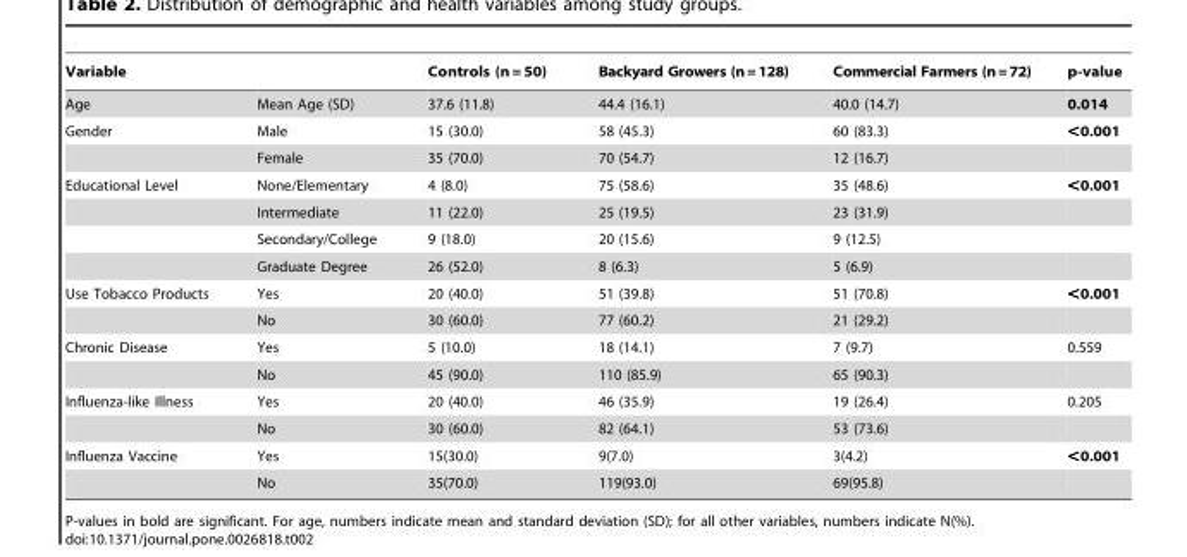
<table><thead><tr><td>Variable</td><td></td><td>Controls (n = 50)</td><td>Backyard Growers (n=128)</td><td>Commercial Farmers (n=72)</td><td>p-value</td></tr></thead><tbody><tr><td>Age</td><td>Mean Age (SD)</td><td>37.6 (11.8)</td><td>44.4 (16.1)</td><td>40.0 (14.7)</td><td>0.014</td></tr><tr><td rowspan="2">Gender</td><td>Male</td><td>15 (30.0)</td><td>58 (45.3)</td><td>60 (83.3)</td><td>&lt;0.001</td></tr><tr><td>Female</td><td>35 (70.0)</td><td>70 (54.7)</td><td>12 (16.7)</td><td></td></tr><tr><td rowspan="4">Educational Level</td><td>None/Elementary</td><td>4 (8.0)</td><td>75 (58.6)</td><td>35 (48.6)</td><td>&lt;0.001</td></tr><tr><td>Intermediate</td><td>11 (22.0)</td><td>25 (19.5)</td><td>23 (31.9)</td><td></td></tr><tr><td>Secondary/College</td><td>9 (18.0)</td><td>20 (15.6)</td><td>9 (12.5)</td><td></td></tr><tr><td>Graduate Degree</td><td>26 (52.0)</td><td>8 (6.3)</td><td>5 (6.9)</td><td></td></tr><tr><td rowspan="2">Use Tobacco Products</td><td>Yes</td><td>20 (40.0)</td><td>51 (39.8)</td><td>51 (70.8)</td><td>&lt;0.001</td></tr><tr><td>No</td><td>30 (60.0)</td><td>77 (60.2)</td><td>21 (29.2)</td><td></td></tr><tr><td rowspan="2">Chronic Disease</td><td>Yes</td><td>5 (10.0)</td><td>18 (14.1)</td><td>7 (9.7)</td><td>0.559</td></tr><tr><td>No</td><td>45 (90.0)</td><td>110 (85.9)</td><td>65 (90.3)</td><td></td></tr><tr><td rowspan="2">Influenza-like Illness</td><td>Yes</td><td>20 (40.0)</td><td>46 (35.9)</td><td>19 (26.4)</td><td>0.205</td></tr><tr><td>No</td><td>30 (60.0)</td><td>82 (64.1)</td><td>53 (73.6)</td><td></td></tr><tr><td rowspan="2">Influenza Vaccine</td><td>Yes</td><td>15(30.0)</td><td>9(7.0)</td><td>3(4.2)</td><td>&lt;0.001</td></tr><tr><td>No</td><td>35(70.0)</td><td>119(93.0)</td><td>69(95.8)</td><td></td></tr></tbody></table>